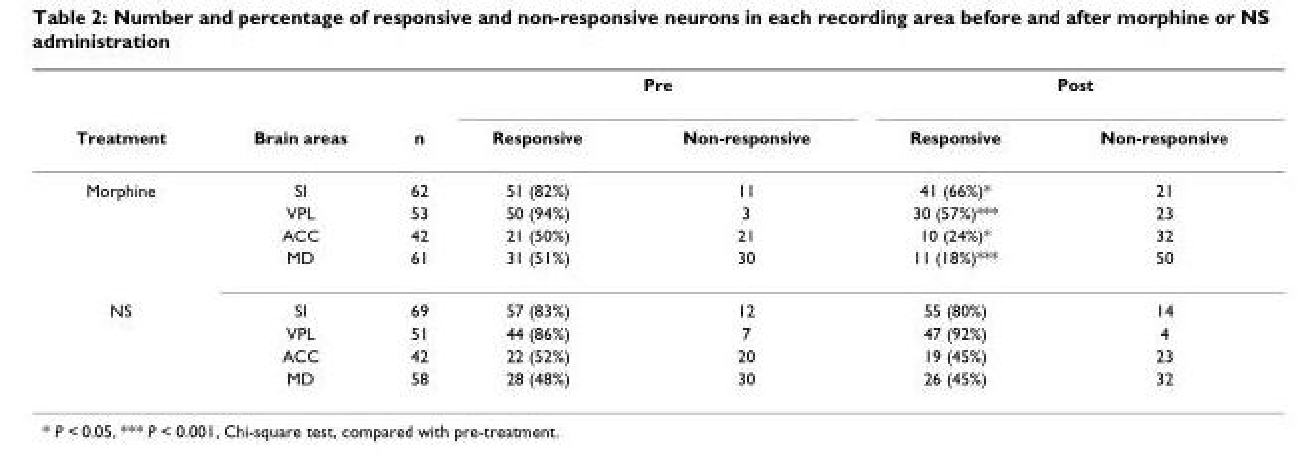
<table><thead><tr><td rowspan="2">Treatment</td><td rowspan="2">Brain areas</td><td rowspan="2">n</td><td colspan="2">Pre</td><td colspan="2">Post</td></tr><tr><td>Responsive</td><td>Non-responsive</td><td>Responsive</td><td>Non-responsive</td></tr></thead><tbody><tr><td rowspan="4">Morphine</td><td>SI</td><td>62</td><td>51 (82%)</td><td>11</td><td>41 (66%)*</td><td>21</td></tr><tr><td>VPL</td><td>53</td><td>50 (94%)</td><td>3</td><td>30 (57%)***</td><td>23</td></tr><tr><td>ACC</td><td>42</td><td>21 (50%)</td><td>21</td><td>10 (24%)*</td><td>32</td></tr><tr><td>MD</td><td>61</td><td>31 (51%)</td><td>30</td><td>11 (18%)***</td><td>50</td></tr><tr><td rowspan="4">NS</td><td>SI</td><td>69</td><td>57 (83%)</td><td>12</td><td>55 (80%)</td><td>14</td></tr><tr><td>VPL</td><td>51</td><td>44 (86%)</td><td>7</td><td>47 (92%)</td><td>4</td></tr><tr><td>ACC</td><td>42</td><td>22 (52%)</td><td>20</td><td>19 (45%)</td><td>23</td></tr><tr><td>MD</td><td>58</td><td>28 (48%)</td><td>30</td><td>26 (45%)</td><td>32</td></tr></tbody></table>